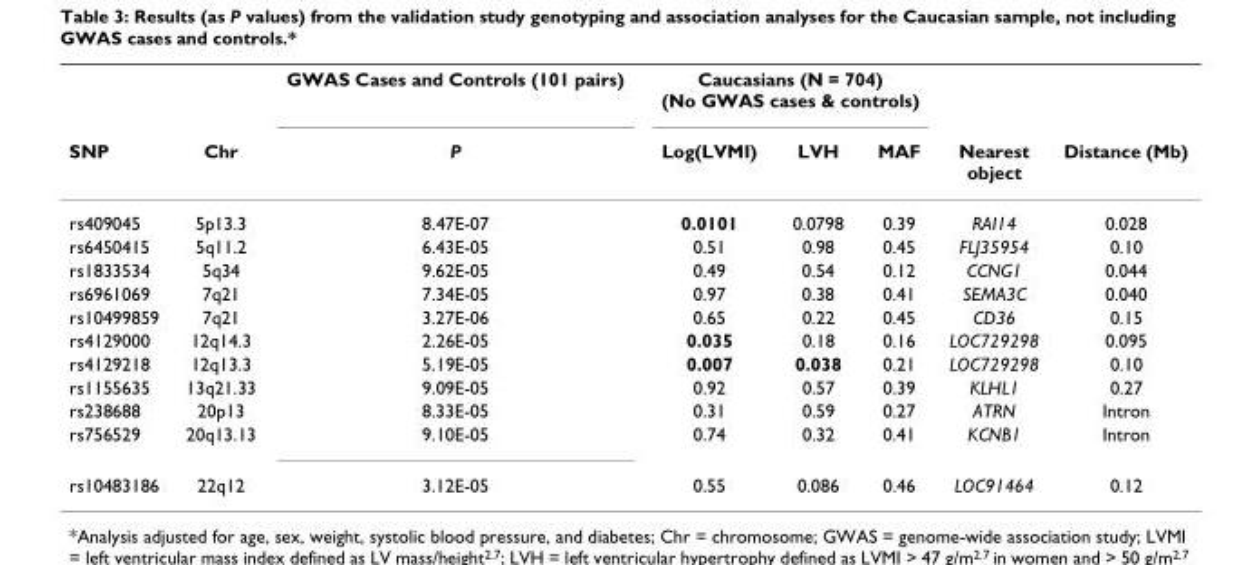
<table><thead><tr><td rowspan="2">SNP</td><td rowspan="2">Chr</td><td rowspan="2">GWAS Cases and Controls (101 pairs) P</td><td colspan="3">Caucasians (N = 704) (No GWAS cases &amp; controls)</td><td rowspan="2">Nearest object</td><td rowspan="2">Distance (Mb)</td></tr><tr><td>Log(LVMI)</td><td>LVH</td><td>MAF</td></tr></thead><tbody><tr><td>rs409045</td><td>5p13.3</td><td>8.47E-07</td><td>0.0101</td><td>0.0798</td><td>0.39</td><td>RAI14</td><td>0.028</td></tr><tr><td>rs6450415</td><td>5q11.2</td><td>6.43E-05</td><td>0.51</td><td>0.98</td><td>0.45</td><td>FLJ35954</td><td>0.10</td></tr><tr><td>rs1833534</td><td>5q34</td><td>9.62E-05</td><td>0.49</td><td>0.54</td><td>0.12</td><td>CCNG1</td><td>0.044</td></tr><tr><td>rs6961069</td><td>7q21</td><td>7.34E-05</td><td>0.97</td><td>0.38</td><td>0.41</td><td>SEMA3C</td><td>0.040</td></tr><tr><td>rs10499859</td><td>7q21</td><td>3.27E-06</td><td>0.65</td><td>0.22</td><td>0.45</td><td>CD36</td><td>0.15</td></tr><tr><td>rs4129000</td><td>12q14.3</td><td>2.26E-05</td><td>0.035</td><td>0.18</td><td>0.16</td><td>LOC729298</td><td>0.095</td></tr><tr><td>rs4129218</td><td>12q13.3</td><td>5.19E-05</td><td>0.007</td><td>0.038</td><td>0.21</td><td>LOC729298</td><td>0.10</td></tr><tr><td>rs1155635</td><td>13q21.33</td><td>9.09E-05</td><td>0.92</td><td>0.57</td><td>0.39</td><td>KLHL1</td><td>0.27</td></tr><tr><td>rs238688</td><td>20p13</td><td>8.33E-05</td><td>0.31</td><td>0.59</td><td>0.27</td><td>ATRN</td><td>Intron</td></tr><tr><td>rs756529</td><td>20q13.13</td><td>9.10E-05</td><td>0.74</td><td>0.32</td><td>0.41</td><td>KCNB1</td><td>Intron</td></tr><tr><td>rs10483186</td><td>22q12</td><td>3.12E-05</td><td>0.55</td><td>0.086</td><td>0.46</td><td>LOC91464</td><td>0.12</td></tr></tbody></table>